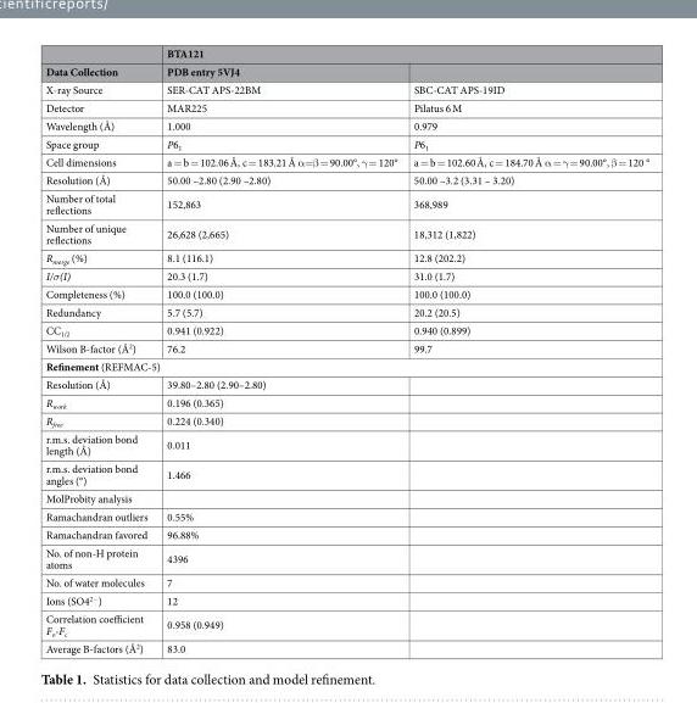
<table><thead><tr><td rowspan="2">Data Collection</td><td colspan="2">BTA121</td></tr><tr><td>PDB entry 5VJ4</td><td></td></tr></thead><tbody><tr><td>X-ray Source</td><td>SER-CAT APS-22BM</td><td>SBC-CAT APS-19ID</td></tr><tr><td>Detector</td><td>MAR225</td><td>Pilatus 6 M</td></tr><tr><td>Wavelength (Å)</td><td>1.000</td><td>0.979</td></tr><tr><td>Space group</td><td>P6<sub>1</sub></td><td>P6<sub>1</sub></td></tr><tr><td>Cell dimensions</td><td>a = b = 102.06 Å, c = 183.21 Å α=β = 90.00°, γ = 120°</td><td>a = b = 102.60 Å, c = 184.70 Å α = γ = 90.00°, β = 120 °</td></tr><tr><td>Resolution (Å)</td><td>50.00 –2.80 (2.90 –2.80)</td><td>50.00 –3.2 (3.31 – 3.20)</td></tr><tr><td>Number of total reflections</td><td>152,863</td><td>368,989</td></tr><tr><td>Number of unique reflections</td><td>26,628 (2,665)</td><td>18,312 (1,822)</td></tr><tr><td>R<sub>merge</sub> (%)</td><td>8.1 (116.1)</td><td>12.8 (202.2)</td></tr><tr><td>I/σ(I)</td><td>20.3 (1.7)</td><td>31.0 (1.7)</td></tr><tr><td>Completeness (%)</td><td>100.0 (100.0)</td><td>100.0 (100.0)</td></tr><tr><td>Redundancy</td><td>5.7 (5.7)</td><td>20.2 (20.5)</td></tr><tr><td>CC<sub>1/2</sub></td><td>0.941 (0.922)</td><td>0.940 (0.899)</td></tr><tr><td>Wilson B-factor (Å<sup>2</sup>)</td><td>76.2</td><td>99.7</td></tr><tr><td colspan="3">Refinement (REFMAC-5)</td></tr><tr><td>Resolution (Å)</td><td>39.80–2.80 (2.90–2.80)</td><td></td></tr><tr><td>R<sub>work</sub></td><td>0.196 (0.365)</td><td></td></tr><tr><td>R<sub>free</sub></td><td>0.224 (0.340)</td><td></td></tr><tr><td>r.m.s. deviation bond length (Å)</td><td>0.011</td><td></td></tr><tr><td>r.m.s. deviation bond angles (°)</td><td>1.466</td><td></td></tr><tr><td colspan="3">MolProbity analysis</td></tr><tr><td>Ramachandran outliers</td><td>0.55%</td><td></td></tr><tr><td>Ramachandran favored</td><td>96.88%</td><td></td></tr><tr><td>No. of non-H protein atoms</td><td>4396</td><td></td></tr><tr><td>No. of water molecules</td><td>7</td><td></td></tr><tr><td>Ions (SO4<sup>2−</sup>)</td><td>12</td><td></td></tr><tr><td>Correlation coefficient F<sub>o</sub>-F<sub>c</sub></td><td>0.958 (0.949)</td><td></td></tr><tr><td>Average B-factors (Å<sup>2</sup>)</td><td>83.0</td><td></td></tr></tbody></table>